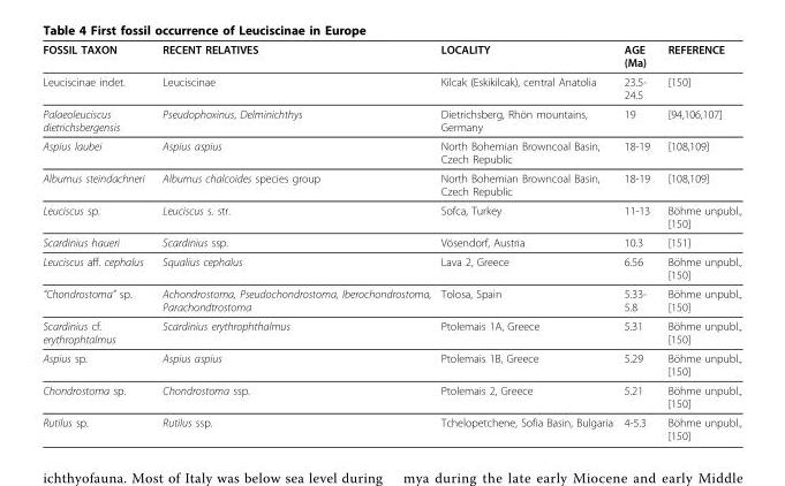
<table><thead><tr><td>FOSSIL TAXON</td><td>RECENT RELATIVES</td><td>LOCALITY</td><td>AGE (Ma)</td><td>REFERENCE</td></tr></thead><tbody><tr><td>Leuciscinae indet.</td><td>Leuciscinae</td><td>Kilcak (Eskikilcak), central Anatolia</td><td>23.5- 24.5</td><td>[150]</td></tr><tr><td>Palaeoleuciscus dietrichsbergensis</td><td>Pseudophoxinus, Delminichthys</td><td>Dietrichsberg, Rhön mountains, Germany</td><td>19</td><td>[94,106,107]</td></tr><tr><td>Aspius laubei</td><td>Aspius aspius</td><td>North Bohemian Browncoal Basin, Czech Republic</td><td>18-19</td><td>[108,109]</td></tr><tr><td>Alburnus steindachneri</td><td>Alburnus chalcoides species group</td><td>North Bohemian Browncoal Basin, Czech Republic</td><td>18-19</td><td>[108,109]</td></tr><tr><td>Leuciscus sp.</td><td>Leuciscus s. str.</td><td>Sofca, Turkey</td><td>11-13</td><td>Böhme unpubl., [150]</td></tr><tr><td>Scardinius haueri</td><td>Scardinius ssp.</td><td>Vösendorf, Austria</td><td>10.3</td><td>[151]</td></tr><tr><td>Leuciscus aff. cephalus</td><td>Squalius cephalus</td><td>Lava 2, Greece</td><td>6.56</td><td>Böhme unpubl., [150]</td></tr><tr><td>“Chondrostoma” sp.</td><td>Achondrostoma, Pseudochondrostoma, Iberochondrostoma, Parachondtrostoma</td><td>Tolosa, Spain</td><td>5.33- 5.8</td><td>Böhme unpubl., [150]</td></tr><tr><td>Scardinius cf. erythrophtalmus</td><td>Scardinius erythrophthalmus</td><td>Ptolemais 1A, Greece</td><td>5.31</td><td>Böhme unpubl., [150]</td></tr><tr><td>Aspius sp.</td><td>Aspius aspius</td><td>Ptolemais 1B, Greece</td><td>5.29</td><td>Böhme unpubl., [150]</td></tr><tr><td>Chondrostoma sp.</td><td>Chondrostoma ssp.</td><td>Ptolemais 2, Greece</td><td>5.21</td><td>Böhme unpubl., [150]</td></tr><tr><td>Rutilus sp.</td><td>Rutilus ssp.</td><td>Tchelopetchene, Sofia Basin, Bulgaria</td><td>4-5.3</td><td>Böhme unpubl., [150]</td></tr></tbody></table>